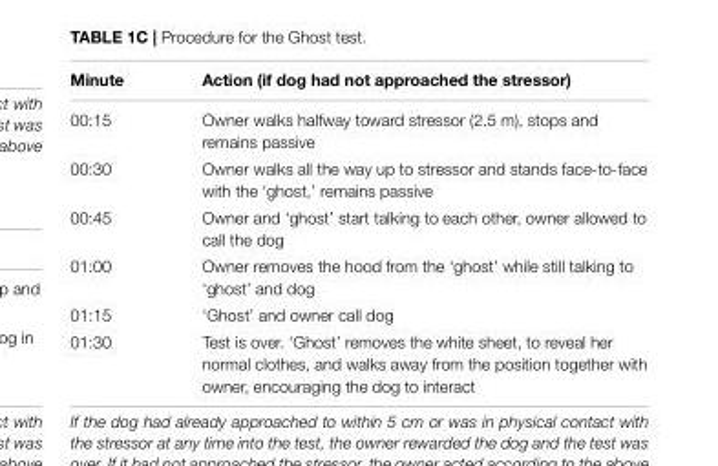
<table><thead><tr><td>Minute</td><td>Action (if dog had not approached the stressor)</td></tr></thead><tbody><tr><td>00:15</td><td>Owner walks halfway toward stressor (2.5 m), stops and remains passive</td></tr><tr><td>00:30</td><td>Owner walks all the way up to stressor and stands face-to-face with the ‘ghost,’ remains passive</td></tr><tr><td>00:45</td><td>Owner and ‘ghost’ start talking to each other, owner allowed to call the dog</td></tr><tr><td>01:00</td><td>Owner removes the hood from the ‘ghost’ while still talking to ‘ghost’ and dog</td></tr><tr><td>01:15</td><td>‘Ghost’ and owner call dog</td></tr><tr><td>01:30</td><td>Test is over. ‘Ghost’ removes the white sheet, to reveal her normal clothes, and walks away from the position together with owner, encouraging the dog to interact</td></tr></tbody></table>